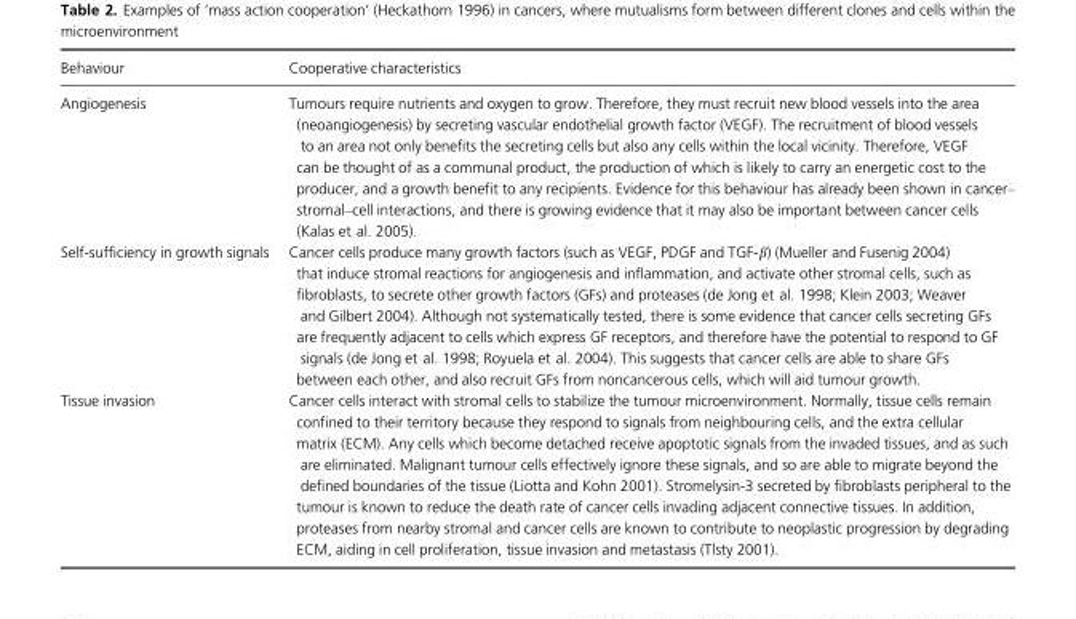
<table><thead><tr><td>Behaviour</td><td>Cooperative characteristics</td></tr></thead><tbody><tr><td>Angiogenesis</td><td>Tumours require nutrients and oxygen to grow. Therefore, they must recruit new blood vessels into the area (neoangiogenesis) by secreting vascular endothelial growth factor (VEGF). The recruitment of blood vessels to an area not only benefits the secreting cells but also any cells within the local vicinity. Therefore, VEGF can be thought of as a communal product, the production of which is likely to carry an energetic cost to the producer, and a growth benefit to any recipients. Evidence for this behaviour has already been shown in cancer– stromal–cell interactions, and there is growing evidence that it may also be important between cancer cells (Kalas et al. 2005).</td></tr><tr><td>Self-sufficiency in growth signals</td><td>Cancer cells produce many growth factors (such as VEGF, PDGF and TGF-β) (Mueller and Fusenig 2004) that induce stromal reactions for angiogenesis and inflammation, and activate other stromal cells, such as fibroblasts, to secrete other growth factors (GFs) and proteases (de Jong et al. 1998; Klein 2003; Weaver and Gilbert 2004). Although not systematically tested, there is some evidence that cancer cells secreting GFs are frequently adjacent to cells which express GF receptors, and therefore have the potential to respond to GF signals (de Jong et al. 1998; Royuela et al. 2004). This suggests that cancer cells are able to share GFs between each other, and also recruit GFs from noncancerous cells, which will aid tumour growth.</td></tr><tr><td>Tissue invasion</td><td>Cancer cells interact with stromal cells to stabilize the tumour microenvironment. Normally, tissue cells remain confined to their territory because they respond to signals from neighbouring cells, and the extra cellular matrix (ECM). Any cells which become detached receive apoptotic signals from the invaded tissues, and as such are eliminated. Malignant tumour cells effectively ignore these signals, and so are able to migrate beyond the defined boundaries of the tissue (Liotta and Kohn 2001). Stromelysin-3 secreted by fibroblasts peripheral to the tumour is known to reduce the death rate of cancer cells invading adjacent connective tissues. In addition, proteases from nearby stromal and cancer cells are known to contribute to neoplastic progression by degrading ECM, aiding in cell proliferation, tissue invasion and metastasis (Tlsty 2001).</td></tr></tbody></table>